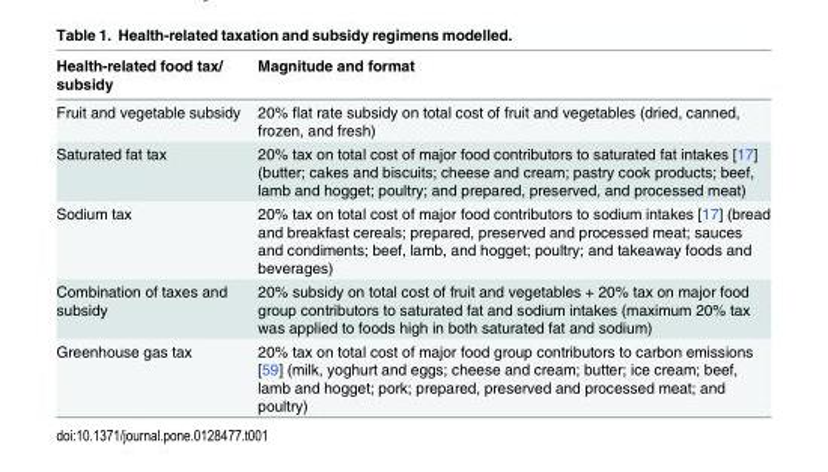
<table><thead><tr><td>Health-related food tax/ subsidy</td><td>Magnitude and format</td></tr></thead><tbody><tr><td>Fruit and vegetable subsidy</td><td>20% flat rate subsidy on total cost of fruit and vegetables (dried, canned, frozen, and fresh)</td></tr><tr><td>Saturated fat tax</td><td>20% tax on total cost of major food contributors to saturated fat intakes [17] (butter; cakes and biscuits; cheese and cream; pastry cook products; beef, lamb and hogget; poultry; and prepared, preserved, and processed meat)</td></tr><tr><td>Sodium tax</td><td>20% tax on total cost of major food contributors to sodium intakes [17] (bread and breakfast cereals; prepared, preserved and processed meat; sauces and condiments; beef, lamb, and hogget; poultry; and takeaway foods and beverages)</td></tr><tr><td>Combination of taxes and subsidy</td><td>20% subsidy on total cost of fruit and vegetables + 20% tax on major food group contributors to saturated fat and sodium intakes (maximum 20% tax was applied to foods high in both saturated fat and sodium)</td></tr><tr><td>Greenhouse gas tax</td><td>20% tax on total cost of major food group contributors to carbon emissions [59] (milk, yoghurt and eggs; cheese and cream; butter; ice cream; beef, lamb and hogget; pork; prepared, preserved and processed meat; and poultry)</td></tr></tbody></table>